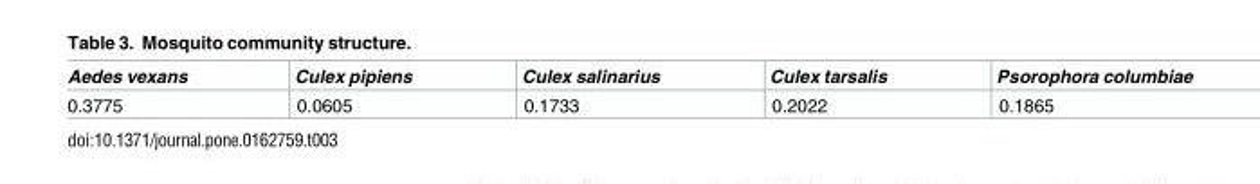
<table><thead><tr><td>Aedes vexans</td><td>Culex pipiens</td><td>Culex salinarius</td><td>Culex tarsalis</td><td>Psorophora columbiae</td></tr></thead><tbody><tr><td>0.3775</td><td>0.0605</td><td>0.1733</td><td>0.2022</td><td>0.1865</td></tr></tbody></table>